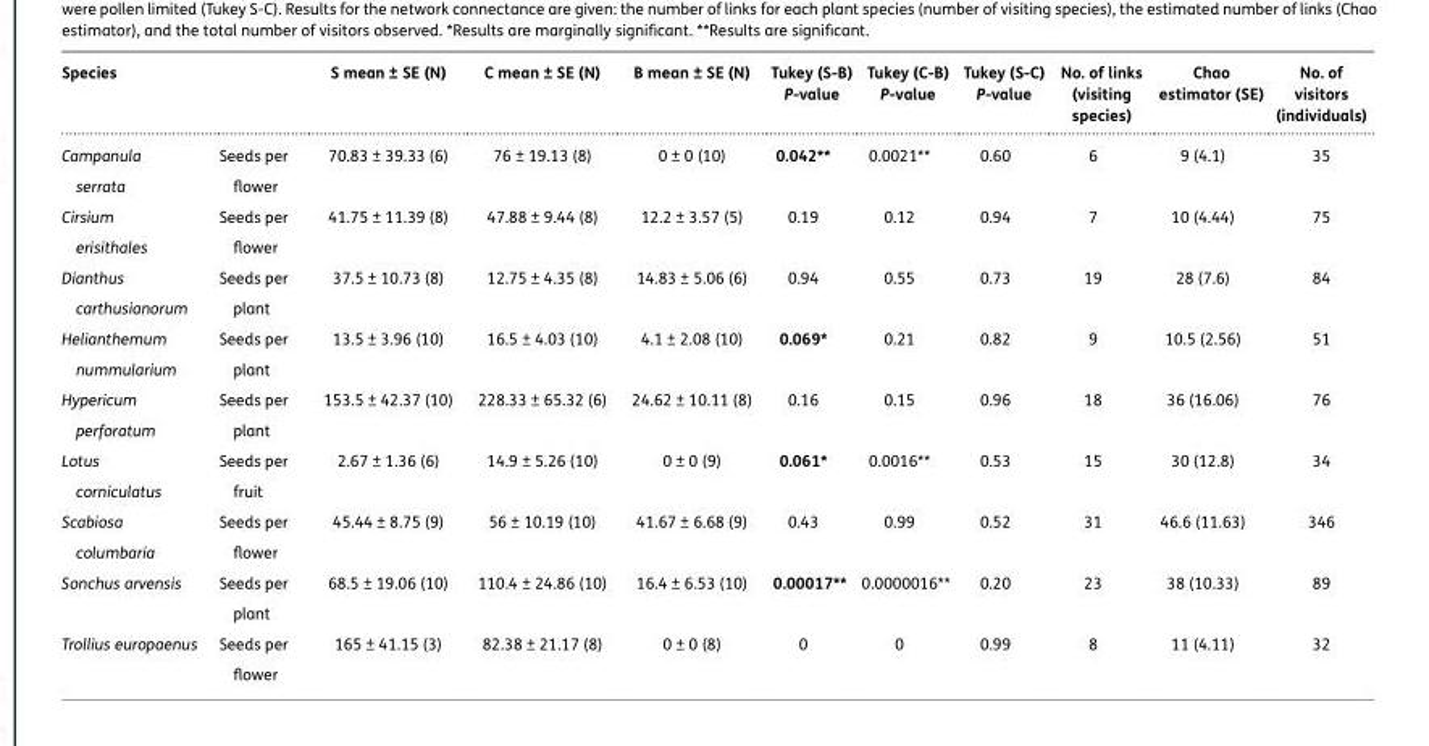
<table><thead><tr><td>Species</td><td></td><td>S mean ± SE (N)</td><td>C mean ± SE (N)</td><td>B mean ± SE (N)</td><td>Tukey (S-B) P-value</td><td>Tukey (C-B) P-value</td><td>Tukey (S-C) P-value</td><td>No. of links (visiting species)</td><td>Chao estimator (SE)</td><td>No. of visitors (individuals)</td></tr></thead><tbody><tr><td>Campanula serrata</td><td>Seeds per flower</td><td>70.83 ± 39.33 (6)</td><td>76 ± 19.13 (8)</td><td>0 ± 0 (10)</td><td>0.042**</td><td>0.0021**</td><td>0.60</td><td>6</td><td>9 (4.1)</td><td>35</td></tr><tr><td>Cirsium erisithales</td><td>Seeds per flower</td><td>41.75 ± 11.39 (8)</td><td>47.88 ± 9.44 (8)</td><td>12.2 ± 3.57 (5)</td><td>0.19</td><td>0.12</td><td>0.94</td><td>7</td><td>10 (4.44)</td><td>75</td></tr><tr><td>Dianthus carthusianorum</td><td>Seeds per plant</td><td>37.5 ± 10.73 (8)</td><td>12.75 ± 4.35 (8)</td><td>14.83 ± 5.06 (6)</td><td>0.94</td><td>0.55</td><td>0.73</td><td>19</td><td>28 (7.6)</td><td>84</td></tr><tr><td>Helianthemum nummularium</td><td>Seeds per plant</td><td>13.5 ± 3.96 (10)</td><td>16.5 ± 4.03 (10)</td><td>4.1 ± 2.08 (10)</td><td>0.069*</td><td>0.21</td><td>0.82</td><td>9</td><td>10.5 (2.56)</td><td>51</td></tr><tr><td>Hypericum perforatum</td><td>Seeds per plant</td><td>153.5 ± 42.37 (10)</td><td>228.33 ± 65.32 (6)</td><td>24.62 ± 10.11 (8)</td><td>0.16</td><td>0.15</td><td>0.96</td><td>18</td><td>36 (16.06)</td><td>76</td></tr><tr><td>Lotus corniculatus</td><td>Seeds per fruit</td><td>2.67 ± 1.36 (6)</td><td>14.9 ± 5.26 (10)</td><td>0 ± 0 (9)</td><td>0.061*</td><td>0.0016**</td><td>0.53</td><td>15</td><td>30 (12.8)</td><td>34</td></tr><tr><td>Scabiosa columbaria</td><td>Seeds per flower</td><td>45.44 ± 8.75 (9)</td><td>56 ± 10.19 (10)</td><td>41.67 ± 6.68 (9)</td><td>0.43</td><td>0.99</td><td>0.52</td><td>31</td><td>46.6 (11.63)</td><td>346</td></tr><tr><td>Sonchus arvensis</td><td>Seeds per plant</td><td>68.5 ± 19.06 (10)</td><td>110.4 ± 24.86 (10)</td><td>16.4 ± 6.53 (10)</td><td>0.00017**</td><td>0.0000016**</td><td>0.20</td><td>23</td><td>38 (10.33)</td><td>89</td></tr><tr><td>Trollius europaenus</td><td>Seeds per flower</td><td>165 ± 41.15 (3)</td><td>82.38 ± 21.17 (8)</td><td>0 ± 0 (8)</td><td>0</td><td>0</td><td>0.99</td><td>8</td><td>11 (4.11)</td><td>32</td></tr></tbody></table>